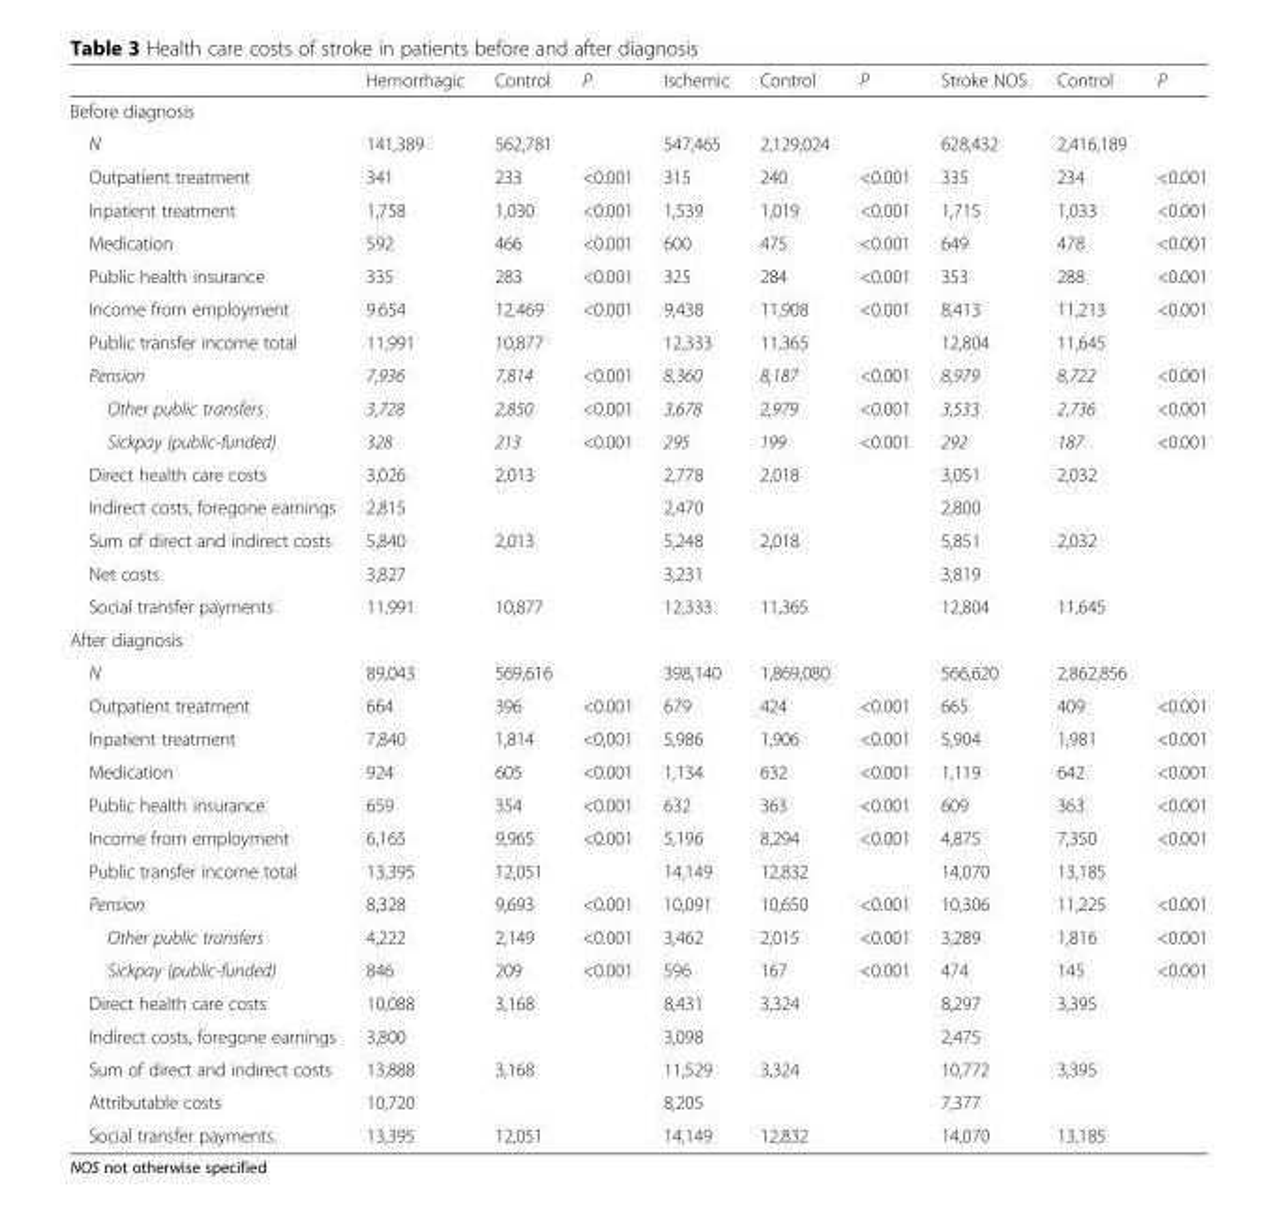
<table><thead><tr><td></td><td>Hemorrhagic</td><td>Control</td><td>P</td><td>Ischemic</td><td>Control</td><td>P</td><td>Stroke NOS</td><td>Control</td><td>P</td></tr></thead><tbody><tr><td colspan="10">Before diagnosis</td></tr><tr><td>N</td><td>141,389</td><td>562,781</td><td></td><td>547,465</td><td>2,129,024</td><td></td><td>628,432</td><td>2,416,189</td><td></td></tr><tr><td>Outpatient treatment</td><td>341</td><td>233</td><td>&lt;0.001</td><td>315</td><td>240</td><td>&lt;0.001</td><td>335</td><td>234</td><td>&lt;0.001</td></tr><tr><td>Inpatient treatment</td><td>1,758</td><td>1,030</td><td>&lt;0.001</td><td>1,539</td><td>1,019</td><td>&lt;0.001</td><td>1,715</td><td>1,033</td><td>&lt;0.001</td></tr><tr><td>Medication</td><td>592</td><td>466</td><td>&lt;0.001</td><td>600</td><td>475</td><td>&lt;0.001</td><td>649</td><td>478</td><td>&lt;0.001</td></tr><tr><td>Public health insurance</td><td>335</td><td>283</td><td>&lt;0.001</td><td>325</td><td>284</td><td>&lt;0.001</td><td>353</td><td>288</td><td>&lt;0.001</td></tr><tr><td>Income from employment</td><td>9.654</td><td>12.469</td><td>&lt;0.001</td><td>9,438</td><td>11,908</td><td>&lt;0.001</td><td>8,413</td><td>11,213</td><td>&lt;0.001</td></tr><tr><td>Public transfer income total</td><td>11,991</td><td>10,877</td><td></td><td>12,333</td><td>11,365</td><td></td><td>12,804</td><td>11,645</td><td></td></tr><tr><td>Pension</td><td>7,936</td><td>7,814</td><td>&lt;0.001</td><td>8,360</td><td>8,187</td><td>&lt;0.001</td><td>8,979</td><td>8,722</td><td>&lt;0.001</td></tr><tr><td>Other public transfers</td><td>3,728</td><td>2,850</td><td>&lt;0.001</td><td>3,678</td><td>2,979</td><td>&lt;0.001</td><td>3,533</td><td>2,736</td><td>&lt;0.001</td></tr><tr><td>Sickpay (public-funded)</td><td>328</td><td>213</td><td>&lt;0.001</td><td>295</td><td>199</td><td>&lt;0.001</td><td>292</td><td>187</td><td>&lt;0.001</td></tr><tr><td>Direct health care costs</td><td>3,026</td><td>2,013</td><td></td><td>2,778</td><td>2,018</td><td></td><td>3,051</td><td>2,032</td><td></td></tr><tr><td>Indirect costs, foregone earnings</td><td>2,815</td><td></td><td></td><td>2,470</td><td></td><td></td><td>2,800</td><td></td><td></td></tr><tr><td>Sum of direct and indirect costs</td><td>5,840</td><td>2,013</td><td></td><td>5,248</td><td>2,018</td><td></td><td>5,851</td><td>2,032</td><td></td></tr><tr><td>Net costs</td><td>3,827</td><td></td><td></td><td>3,231</td><td></td><td></td><td>3,819</td><td></td><td></td></tr><tr><td>Social transfer payments</td><td>11,991</td><td>10,877</td><td></td><td>12,333</td><td>11,365</td><td></td><td>12,804</td><td>11,645</td><td></td></tr><tr><td colspan="10">After diagnosis</td></tr><tr><td>N</td><td>89,043</td><td>569,616</td><td></td><td>398,140</td><td>1,869,080</td><td></td><td>566,620</td><td>2,862,856</td><td></td></tr><tr><td>Outpatient treatment</td><td>664</td><td>396</td><td>&lt;0.001</td><td>679</td><td>424</td><td>&lt;0.001</td><td>665</td><td>409</td><td>&lt;0.001</td></tr><tr><td>Inpatient treatment</td><td>7,840</td><td>1,814</td><td>&lt;0,001</td><td>5,986</td><td>1,906</td><td>&lt;0.001</td><td>5,904</td><td>1,981</td><td>&lt;0.001</td></tr><tr><td>Medication</td><td>924</td><td>605</td><td>&lt;0.001</td><td>1,134</td><td>632</td><td>&lt;0.001</td><td>1,119</td><td>642</td><td>&lt;0.001</td></tr><tr><td>Public health insurance</td><td>659</td><td>354</td><td>&lt;0.001</td><td>632</td><td>363</td><td>&lt;0.001</td><td>609</td><td>363</td><td>&lt;0.001</td></tr><tr><td>Income from employment</td><td>6,165</td><td>9,965</td><td>&lt;0.001</td><td>5,196</td><td>8,294</td><td>&lt;0.001</td><td>4,875</td><td>7,350</td><td>&lt;0.001</td></tr><tr><td>Public transfer income total</td><td>13,395</td><td>12,051</td><td></td><td>14,149</td><td>12,832</td><td></td><td>14,070</td><td>13,185</td><td></td></tr><tr><td>Pension</td><td>8,328</td><td>9,693</td><td>&lt;0.001</td><td>10,091</td><td>10,650</td><td>&lt;0.001</td><td>10,306</td><td>11,225</td><td>&lt;0.001</td></tr><tr><td>Other public transfers</td><td>4,222</td><td>2,149</td><td>&lt;0.001</td><td>3,462</td><td>2,015</td><td>&lt;0.001</td><td>3,289</td><td>1,816</td><td>&lt;0.001</td></tr><tr><td>Sickpay (public-funded)</td><td>846</td><td>209</td><td>&lt;0.001</td><td>596</td><td>167</td><td>&lt;0.001</td><td>474</td><td>145</td><td>&lt;0.001</td></tr><tr><td>Direct health care costs</td><td>10,088</td><td>3,168</td><td></td><td>8,431</td><td>3,324</td><td></td><td>8,297</td><td>3,395</td><td></td></tr><tr><td>Indirect costs, foregone earnings</td><td>3,800</td><td></td><td></td><td>3,098</td><td></td><td></td><td>2,475</td><td></td><td></td></tr><tr><td>Sum of direct and indirect costs</td><td>13,888</td><td>3,168</td><td></td><td>11,529</td><td>3,324</td><td></td><td>10,772</td><td>3,395</td><td></td></tr><tr><td>Attributable costs</td><td>10,720</td><td></td><td></td><td>8,205</td><td></td><td></td><td>7,377</td><td></td><td></td></tr><tr><td>Social transfer payments</td><td>13,395</td><td>12,051</td><td></td><td>14,149</td><td>12,832</td><td></td><td>14,070</td><td>13,185</td><td></td></tr></tbody></table>